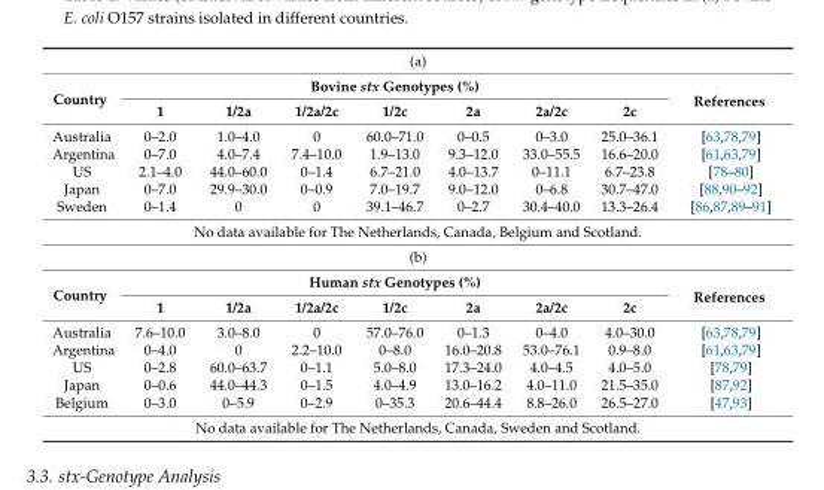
<table><tbody><tr><td colspan="9">(a)</td></tr><tr><td rowspan="2">Country</td><td colspan="7">Bovine stx Genotypes (%)</td><td rowspan="2">References</td></tr><tr><td>1</td><td>1/2a</td><td>1/2a/2c</td><td>1/2c</td><td>2a</td><td>2a/2c</td><td>2c</td></tr><tr><td>Australia</td><td>0–2.0</td><td>1.0–4.0</td><td>0</td><td>60.0–71.0</td><td>0–0.5</td><td>0–3.0</td><td>25.0–36.1</td><td>[63,78,79]</td></tr><tr><td>Argentina</td><td>0–7.0</td><td>4.0–7.4</td><td>7.4–10.0</td><td>1.9–13.0</td><td>9.3–12.0</td><td>33.0–55.5</td><td>16.6–20.0</td><td>[61,63,79]</td></tr><tr><td>US</td><td>2.1–4.0</td><td>44.0–60.0</td><td>0–1.4</td><td>6.7–21.0</td><td>4.0–13.7</td><td>0–11.1</td><td>6.7–23.8</td><td>[78–80]</td></tr><tr><td>Japan</td><td>0–7.0</td><td>29.9–30.0</td><td>0–0.9</td><td>7.0–19.7</td><td>9.0–12.0</td><td>0–6.8</td><td>30.7–47.0</td><td>[88,90–92]</td></tr><tr><td>Sweden</td><td>0–1.4</td><td>0</td><td>0</td><td>39.1–46.7</td><td>0–2.7</td><td>30.4–40.0</td><td>13.3–26.4</td><td>[86,87,89–91]</td></tr><tr><td colspan="9">No data available for The Netherlands, Canada, Belgium and Scotland.</td></tr><tr><td colspan="9">(b)</td></tr><tr><td rowspan="2">Country</td><td colspan="7">Human stx Genotypes (%)</td><td rowspan="2">References</td></tr><tr><td>1</td><td>1/2a</td><td>1/2a/2c</td><td>1/2c</td><td>2a</td><td>2a/2c</td><td>2c</td></tr><tr><td>Australia</td><td>7.6–10.0</td><td>3.0–8.0</td><td>0</td><td>57.0–76.0</td><td>0–1.3</td><td>0–4.0</td><td>4.0–30.0</td><td>[63,78,79]</td></tr><tr><td>Argentina</td><td>0–4.0</td><td>0</td><td>2.2–10.0</td><td>0–8.0</td><td>16.0–20.8</td><td>53.0–76.1</td><td>0.9–8.0</td><td>[61,63,79]</td></tr><tr><td>US</td><td>0–2.8</td><td>60.0–63.7</td><td>0–1.1</td><td>5.0–8.0</td><td>17.3–24.0</td><td>4.0–4.5</td><td>4.0–5.0</td><td>[78,79]</td></tr><tr><td>Japan</td><td>0–0.6</td><td>44.0–44.3</td><td>0–1.5</td><td>4.0–4.9</td><td>13.0–16.2</td><td>4.0–11.0</td><td>21.5–35.0</td><td>[87,92]</td></tr><tr><td>Belgium</td><td>0–3.0</td><td>0–5.9</td><td>0–2.9</td><td>0–35.3</td><td>20.6–44.4</td><td>8.8–26.0</td><td>26.5–27.0</td><td>[47,93]</td></tr><tr><td colspan="9">No data available for The Netherlands, Canada, Sweden and Scotland.</td></tr></tbody></table>